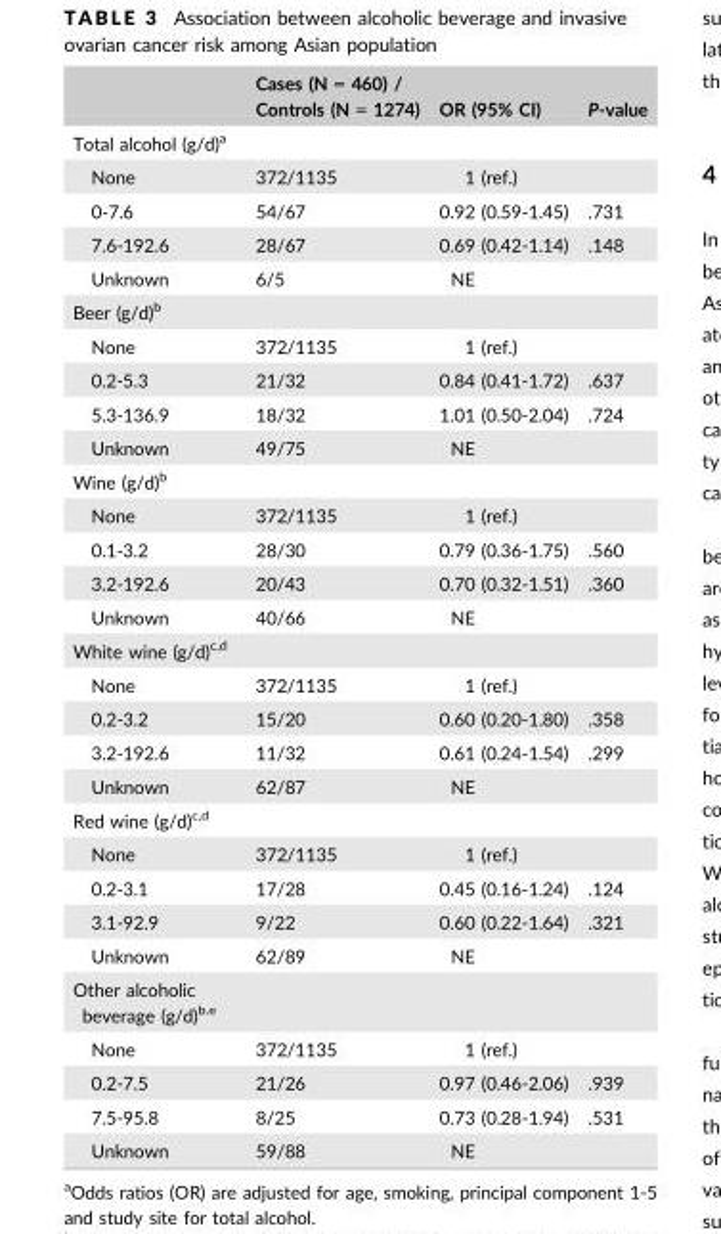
<table><thead><tr><td></td><td>Cases (N = 460) / Controls (N = 1274)</td><td>OR (95% CI)</td><td>P-value</td></tr></thead><tbody><tr><td colspan="4">Total alcohol (g/d)<sup>a</sup></td></tr><tr><td>None</td><td>372/1135</td><td>1 (ref.)</td><td></td></tr><tr><td>0-7.6</td><td>54/67</td><td>0.92 (0.59-1.45)</td><td>.731</td></tr><tr><td>7.6-192.6</td><td>28/67</td><td>0.69 (0.42-1.14)</td><td>.148</td></tr><tr><td>Unknown</td><td>6/5</td><td>NE</td><td></td></tr><tr><td colspan="4">Beer (g/d)<sup>b</sup></td></tr><tr><td>None</td><td>372/1135</td><td>1 (ref.)</td><td></td></tr><tr><td>0.2-5.3</td><td>21/32</td><td>0.84 (0.41-1.72)</td><td>.637</td></tr><tr><td>5.3-136.9</td><td>18/32</td><td>1.01 (0.50-2.04)</td><td>.724</td></tr><tr><td>Unknown</td><td>49/75</td><td>NE</td><td></td></tr><tr><td colspan="4">Wine (g/d)<sup>b</sup></td></tr><tr><td>None</td><td>372/1135</td><td>1 (ref.)</td><td></td></tr><tr><td>0.1-3.2</td><td>28/30</td><td>0.79 (0.36-1.75)</td><td>.560</td></tr><tr><td>3.2-192.6</td><td>20/43</td><td>0.70 (0.32-1.51)</td><td>.360</td></tr><tr><td>Unknown</td><td>40/66</td><td>NE</td><td></td></tr><tr><td colspan="4">White wine (g/d)<sup>c,</sup>d</td></tr><tr><td>None</td><td>372/1135</td><td>1 (ref.)</td><td></td></tr><tr><td>0.2-3.2</td><td>15/20</td><td>0.60 (0.20-1.80)</td><td>.358</td></tr><tr><td>3.2-192.6</td><td>11/32</td><td>0.61 (0.24-1.54)</td><td>.299</td></tr><tr><td>Unknown</td><td>62/87</td><td>NE</td><td></td></tr><tr><td colspan="4">Red wine (g/d)<sup>c,</sup>d</td></tr><tr><td>None</td><td>372/1135</td><td>1 (ref.)</td><td></td></tr><tr><td>0.2-3.1</td><td>17/28</td><td>0.45 (0.16-1.24)</td><td>.124</td></tr><tr><td>3.1-92.9</td><td>9/22</td><td>0.60 (0.22-1.64)</td><td>.321</td></tr><tr><td>Unknown</td><td>62/89</td><td>NE</td><td></td></tr><tr><td colspan="4">Other alcoholic beverage (g/d)<sup>b.</sup>e</td></tr><tr><td>None</td><td>372/1135</td><td>1 (ref.)</td><td></td></tr><tr><td>0.2-7.5</td><td>21/26</td><td>0.97 (0.46-2.06)</td><td>.939</td></tr><tr><td>7.5-95.8</td><td>8/25</td><td>0.73 (0.28-1.94)</td><td>.531</td></tr><tr><td>Unknown</td><td>59/88</td><td>NE</td><td></td></tr></tbody></table>